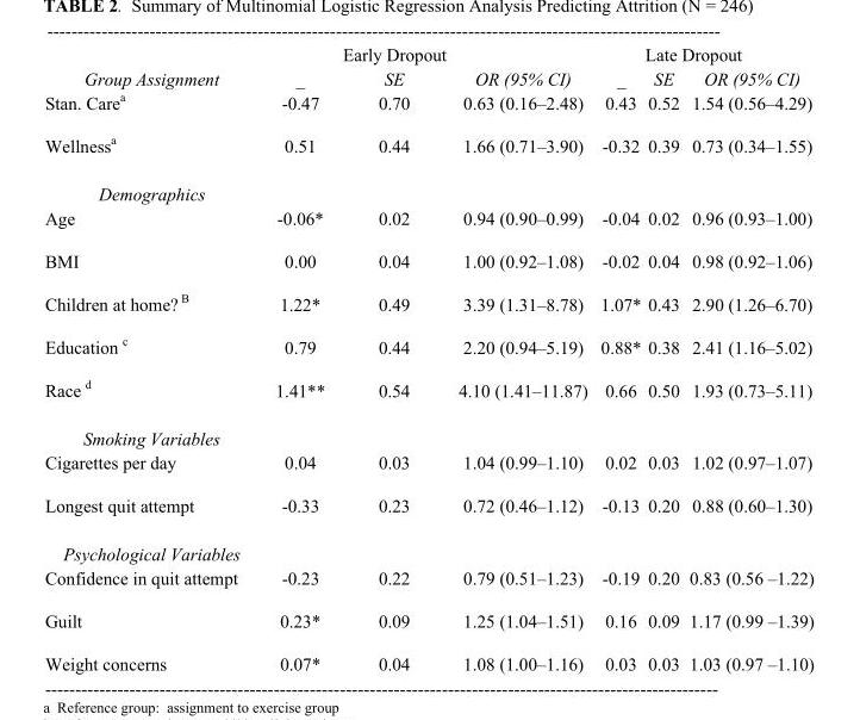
<table><thead><tr><td rowspan="2">Group Assignment</td><td colspan="3">Early Dropout</td><td colspan="3">Late Dropout</td></tr><tr><td>_</td><td>SE</td><td>OR (95% CI)</td><td>_</td><td>SE</td><td>OR (95% CI)</td></tr></thead><tbody><tr><td>Stan. Care<sup>a</sup></td><td>-0.47</td><td>0.70</td><td>0.63 (0.16–2.48)</td><td>0.43</td><td>0.52</td><td>1.54 (0.56–4.29)</td></tr><tr><td>Wellness<sup>a</sup></td><td>0.51</td><td>0.44</td><td>1.66 (0.71–3.90)</td><td>-0.32</td><td>0.39</td><td>0.73 (0.34–1.55)</td></tr><tr><td colspan="7">Demographics</td></tr><tr><td>Age</td><td>-0.06*</td><td>0.02</td><td>0.94 (0.90–0.99)</td><td>-0.04</td><td>0.02</td><td>0.96 (0.93–1.00)</td></tr><tr><td>BMI</td><td>0.00</td><td>0.04</td><td>1.00 (0.92–1.08)</td><td>-0.02</td><td>0.04</td><td>0.98 (0.92–1.06)</td></tr><tr><td>Children at home? <sup>B</sup></td><td>1.22*</td><td>0.49</td><td>3.39 (1.31–8.78)</td><td>1.07*</td><td>0.43</td><td>2.90 (1.26–6.70)</td></tr><tr><td>Education <sup>c</sup></td><td>0.79</td><td>0.44</td><td>2.20 (0.94–5.19)</td><td>0.88*</td><td>0.38</td><td>2.41 (1.16–5.02)</td></tr><tr><td>Race <sup>d</sup></td><td>1.41**</td><td>0.54</td><td>4.10 (1.41–11.87)</td><td>0.66</td><td>0.50</td><td>1.93 (0.73–5.11)</td></tr><tr><td colspan="7">Smoking Variables</td></tr><tr><td>Cigarettes per day</td><td>0.04</td><td>0.03</td><td>1.04 (0.99–1.10)</td><td>0.02</td><td>0.03</td><td>1.02 (0.97–1.07)</td></tr><tr><td>Longest quit attempt</td><td>-0.33</td><td>0.23</td><td>0.72 (0.46–1.12)</td><td>-0.13</td><td>0.20</td><td>0.88 (0.60–1.30)</td></tr><tr><td colspan="7">Psychological Variables</td></tr><tr><td>Confidence in quit attempt</td><td>-0.23</td><td>0.22</td><td>0.79 (0.51–1.23)</td><td>-0.19</td><td>0.20</td><td>0.83 (0.56 –1.22)</td></tr><tr><td>Guilt</td><td>0.23*</td><td>0.09</td><td>1.25 (1.04–1.51)</td><td>0.16</td><td>0.09</td><td>1.17 (0.99 –1.39)</td></tr><tr><td>Weight concerns</td><td>0.07*</td><td>0.04</td><td>1.08 (1.00–1.16)</td><td>0.03</td><td>0.03</td><td>1.03 (0.97 –1.10)</td></tr></tbody></table>